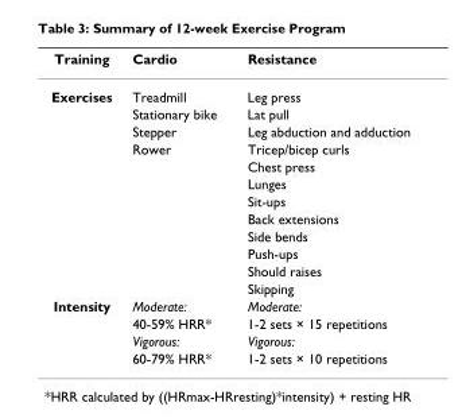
<table><thead><tr><td>Training</td><td>Cardio</td><td>Resistance</td></tr></thead><tbody><tr><td rowspan="12">Exercises</td><td>Treadmill</td><td>Leg press</td></tr><tr><td>Stationary bike</td><td>Lat pull</td></tr><tr><td>Stepper</td><td>Leg abduction and adduction</td></tr><tr><td>Rower</td><td>Tricep/bicep curls</td></tr><tr><td></td><td>Chest press</td></tr><tr><td></td><td>Lunges</td></tr><tr><td></td><td>Sit-ups</td></tr><tr><td></td><td>Back extensions</td></tr><tr><td></td><td>Side bends</td></tr><tr><td></td><td>Push-ups</td></tr><tr><td></td><td>Should raises</td></tr><tr><td></td><td>Skipping</td></tr><tr><td rowspan="4">Intensity</td><td>Moderate:</td><td>Moderate:</td></tr><tr><td>40-59% HRR*</td><td>1-2 sets × 15 repetitions</td></tr><tr><td>Vigorous:</td><td>Vigorous:</td></tr><tr><td>60-79% HRR*</td><td>1-2 sets × 10 repetitions</td></tr></tbody></table>